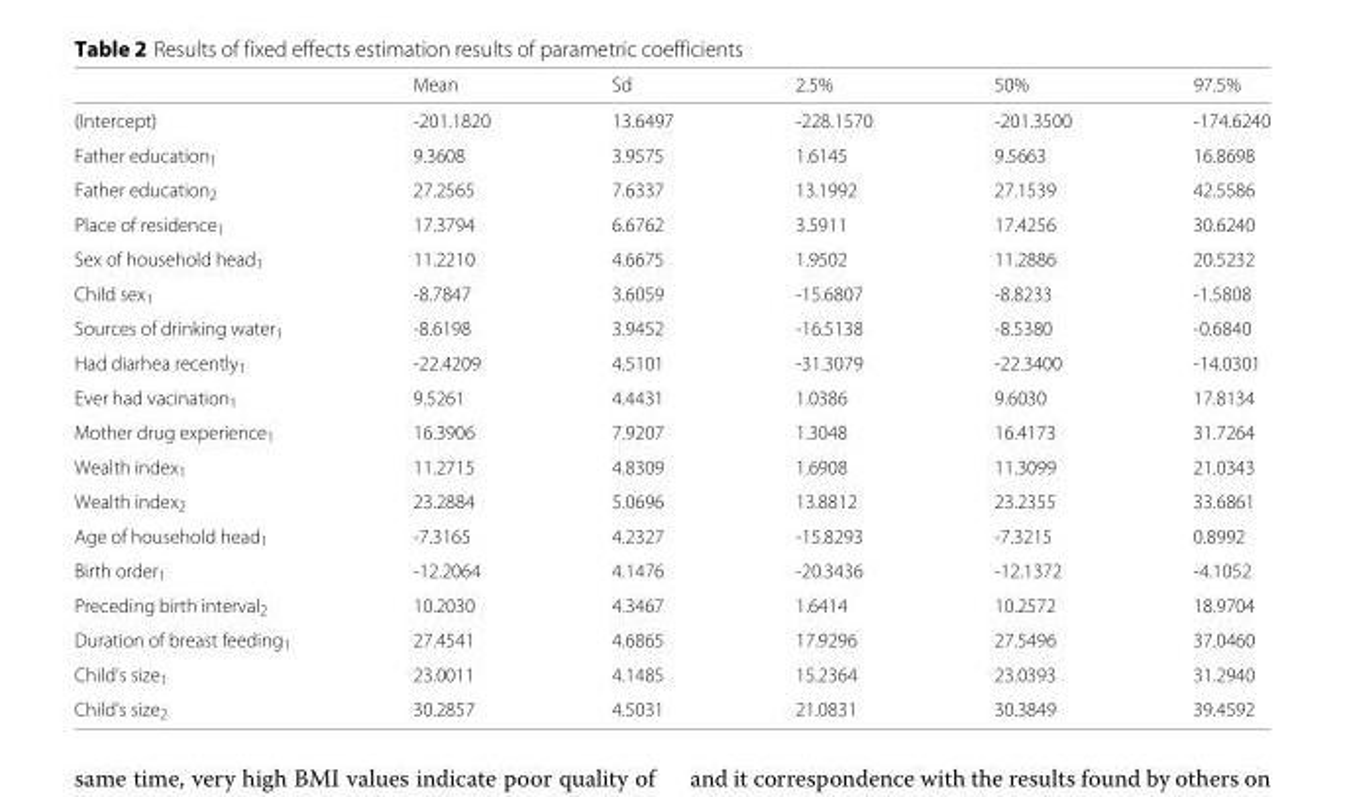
<table><thead><tr><td></td><td>Mean</td><td>Sd</td><td>2.5%</td><td>50%</td><td>97.5%</td></tr></thead><tbody><tr><td>(Intercept)</td><td>-201.1820</td><td>13.6497</td><td>-228.1570</td><td>-201.3500</td><td>-174.6240</td></tr><tr><td>Father education<sub>1</sub></td><td>9.3608</td><td>3.9575</td><td>1.6145</td><td>9.5663</td><td>16.8698</td></tr><tr><td>Father education<sub>2</sub></td><td>27.2565</td><td>7.6337</td><td>13.1992</td><td>27.1539</td><td>42.5586</td></tr><tr><td>Place of residence<sub>1</sub></td><td>17.3794</td><td>6.6762</td><td>3.5911</td><td>17.4256</td><td>30.6240</td></tr><tr><td>Sex of household head<sub>1</sub></td><td>11.2210</td><td>4.6675</td><td>1.9502</td><td>11.2886</td><td>20.5232</td></tr><tr><td>Child sex<sub>1</sub></td><td>-8.7847</td><td>3.6059</td><td>-15.6807</td><td>-8.8233</td><td>-1.5808</td></tr><tr><td>Sources of drinking water<sub>1</sub></td><td>-8.6198</td><td>3.9452</td><td>-16.5138</td><td>-8.5380</td><td>-0.6840</td></tr><tr><td>Had diarhea recently<sub>1</sub></td><td>-22.4209</td><td>4.5101</td><td>-31.3079</td><td>-22.3400</td><td>-14.0301</td></tr><tr><td>Ever had vacination<sub>1</sub></td><td>9.5261</td><td>4.4431</td><td>1.0386</td><td>9.6030</td><td>17.8134</td></tr><tr><td>Mother drug experience<sub>1</sub></td><td>16.3906</td><td>7.9207</td><td>1.3048</td><td>16.4173</td><td>31.7264</td></tr><tr><td>Wealth index<sub>1</sub></td><td>11.2715</td><td>4.8309</td><td>1.6908</td><td>11.3099</td><td>21.0343</td></tr><tr><td>Wealth index<sub>2</sub></td><td>23.2884</td><td>5.0696</td><td>13.8812</td><td>23.2355</td><td>33.6861</td></tr><tr><td>Age of household head<sub>1</sub></td><td>-7.3165</td><td>4.2327</td><td>-15.8293</td><td>-7.3215</td><td>0.8992</td></tr><tr><td>Birth order<sub>1</sub></td><td>-12.2064</td><td>4.1476</td><td>-20.3436</td><td>-12.1372</td><td>-4.1052</td></tr><tr><td>Preceding birth interval<sub>2</sub></td><td>10.2030</td><td>4.3467</td><td>1.6414</td><td>10.2572</td><td>18.9704</td></tr><tr><td>Duration of breast feeding<sub>1</sub></td><td>27.4541</td><td>4.6865</td><td>17.9296</td><td>27.5496</td><td>37.0460</td></tr><tr><td>Child’s size<sub>1</sub></td><td>23.0011</td><td>4.1485</td><td>15.2364</td><td>23.0393</td><td>31.2940</td></tr><tr><td>Child’s size<sub>2</sub></td><td>30.2857</td><td>4.5031</td><td>21.0831</td><td>30.3849</td><td>39.4592</td></tr></tbody></table>